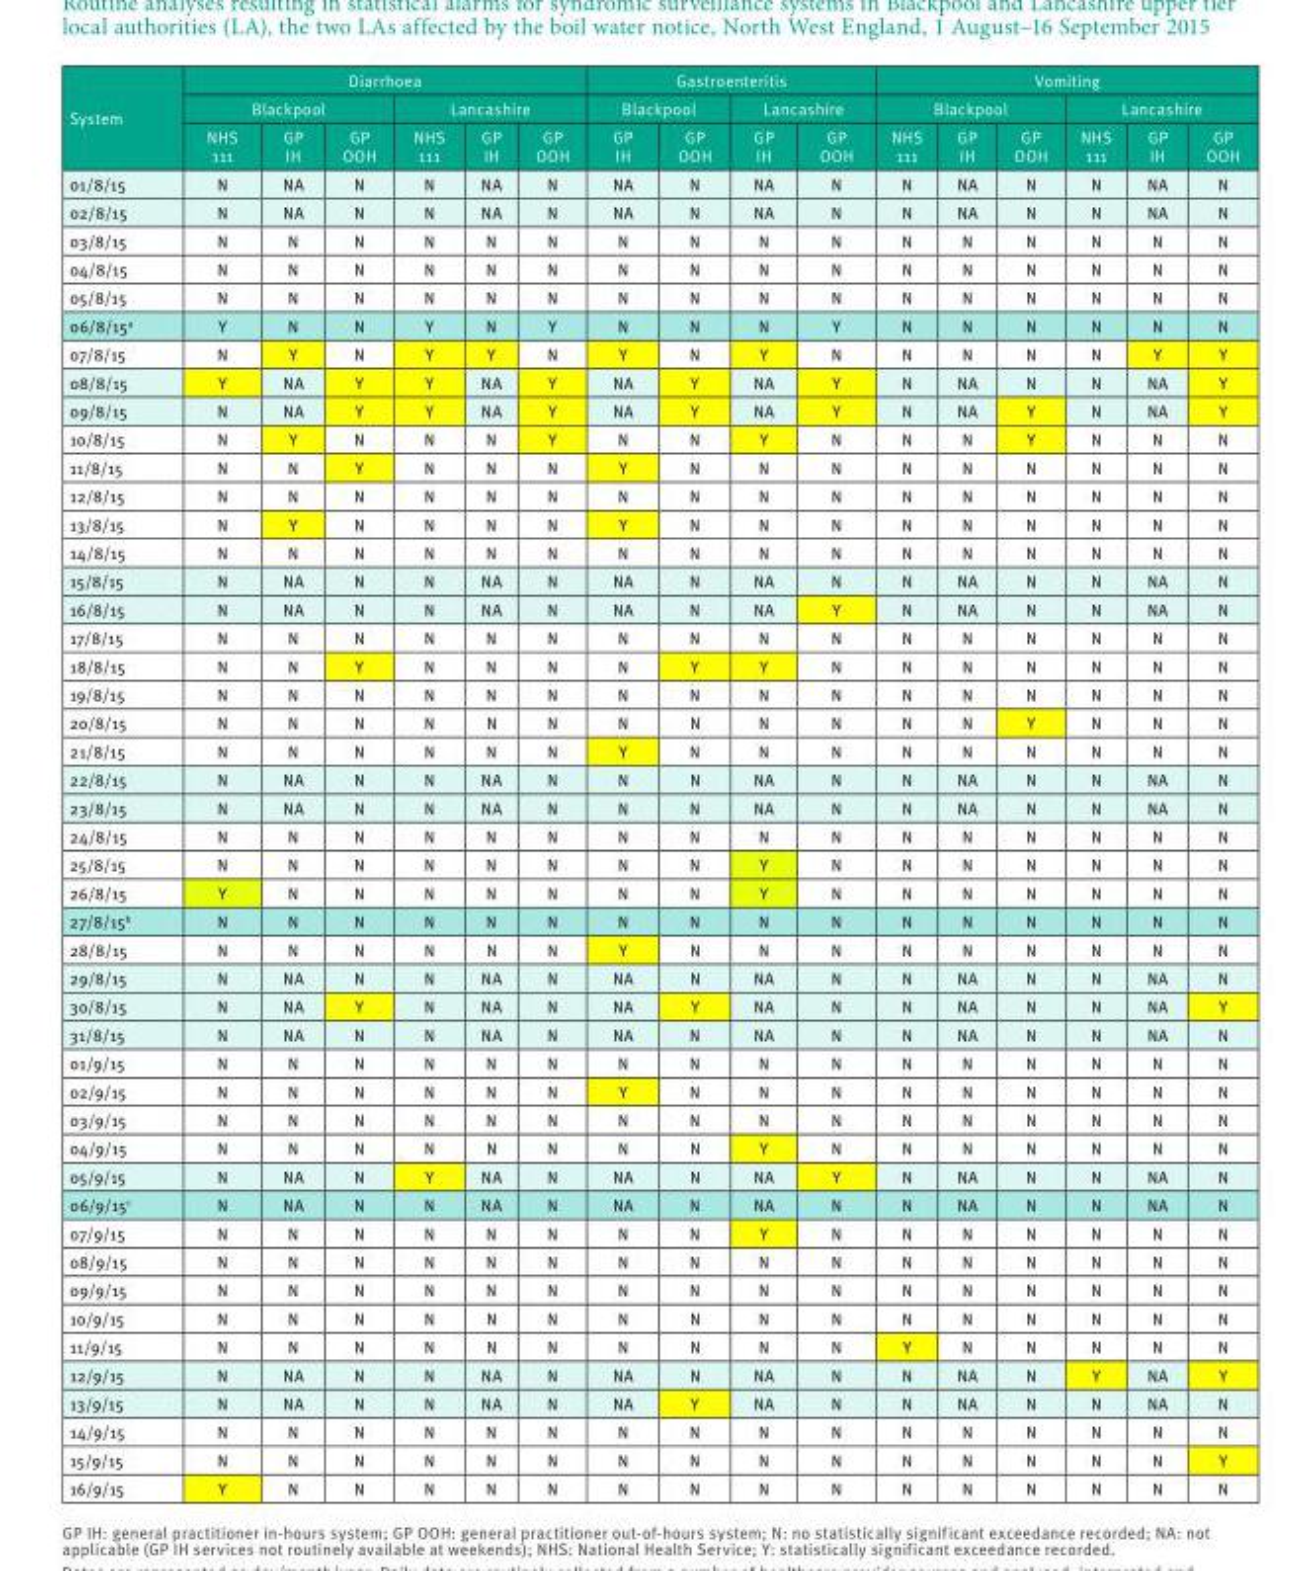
<table><thead><tr><td rowspan="3">System</td><td colspan="6">Diarrhoea</td><td colspan="4">Gastroenteritis</td><td colspan="6">Vomiting</td></tr><tr><td colspan="3">Blackpool</td><td colspan="3">Lancashire</td><td colspan="2">Blackpool</td><td colspan="2">Lancashire</td><td colspan="3">Blackpool</td><td colspan="3">Lancashire</td></tr><tr><td>NHS 111</td><td>GP IH</td><td>GP OOH</td><td>NHS 111</td><td>GP IH</td><td>GP OOH</td><td>GP IH</td><td>GP OOH</td><td>GP IH</td><td>GP OOH</td><td>NHS 111</td><td>GP IH</td><td>GP OOH</td><td>NHS 111</td><td>GP IH</td><td>GP OOH</td></tr></thead><tbody><tr><td>01/8/15</td><td>N</td><td>NA</td><td>N</td><td>N</td><td>NA</td><td>N</td><td>NA</td><td>N</td><td>NA</td><td>N</td><td>N</td><td>NA</td><td>N</td><td>N</td><td>NA</td><td>N</td></tr><tr><td>02/8/15</td><td>N</td><td>NA</td><td>N</td><td>N</td><td>NA</td><td>N</td><td>NA</td><td>N</td><td>NA</td><td>N</td><td>N</td><td>NA</td><td>N</td><td>N</td><td>NA</td><td>N</td></tr><tr><td>03/8/15</td><td>N</td><td>N</td><td>N</td><td>N</td><td>N</td><td>N</td><td>N</td><td>N</td><td>N</td><td>N</td><td>N</td><td>N</td><td>N</td><td>N</td><td>N</td><td>N</td></tr><tr><td>04/8/15</td><td>N</td><td>N</td><td>N</td><td>N</td><td>N</td><td>N</td><td>N</td><td>N</td><td>N</td><td>N</td><td>N</td><td>N</td><td>N</td><td>N</td><td>N</td><td>N</td></tr><tr><td>05/8/15</td><td>N</td><td>N</td><td>N</td><td>N</td><td>N</td><td>N</td><td>N</td><td>N</td><td>N</td><td>N</td><td>N</td><td>N</td><td>N</td><td>N</td><td>N</td><td>N</td></tr><tr><td>06/8/15<sup>a</sup></td><td>Y</td><td>N</td><td>N</td><td>Y</td><td>N</td><td>Y</td><td>N</td><td>N</td><td>N</td><td>Y</td><td>N</td><td>N</td><td>N</td><td>N</td><td>N</td><td>N</td></tr><tr><td>07/8/15</td><td>N</td><td>Y</td><td>N</td><td>Y</td><td>Y</td><td>N</td><td>Y</td><td>N</td><td>Y</td><td>N</td><td>N</td><td>N</td><td>N</td><td>N</td><td>Y</td><td>Y</td></tr><tr><td>08/8/15</td><td>Y</td><td>NA</td><td>Y</td><td>Y</td><td>NA</td><td>Y</td><td>NA</td><td>Y</td><td>NA</td><td>Y</td><td>N</td><td>NA</td><td>N</td><td>N</td><td>NA</td><td>Y</td></tr><tr><td>09/8/15</td><td>N</td><td>NA</td><td>Y</td><td>Y</td><td>NA</td><td>Y</td><td>NA</td><td>Y</td><td>NA</td><td>Y</td><td>N</td><td>NA</td><td>Y</td><td>N</td><td>NA</td><td>Y</td></tr><tr><td>10/8/15</td><td>N</td><td>Y</td><td>N</td><td>N</td><td>N</td><td>Y</td><td>N</td><td>N</td><td>Y</td><td>N</td><td>N</td><td>N</td><td>Y</td><td>N</td><td>N</td><td>N</td></tr><tr><td>11/8/15</td><td>N</td><td>N</td><td>Y</td><td>N</td><td>N</td><td>N</td><td>Y</td><td>N</td><td>N</td><td>N</td><td>N</td><td>N</td><td>N</td><td>N</td><td>N</td><td>N</td></tr><tr><td>12/8/15</td><td>N</td><td>N</td><td>N</td><td>N</td><td>N</td><td>N</td><td>N</td><td>N</td><td>N</td><td>N</td><td>N</td><td>N</td><td>N</td><td>N</td><td>N</td><td>N</td></tr><tr><td>13/8/15</td><td>N</td><td>Y</td><td>N</td><td>N</td><td>N</td><td>N</td><td>Y</td><td>N</td><td>N</td><td>N</td><td>N</td><td>N</td><td>N</td><td>N</td><td>N</td><td>N</td></tr><tr><td>14/8/15</td><td>N</td><td>N</td><td>N</td><td>N</td><td>N</td><td>N</td><td>N</td><td>N</td><td>N</td><td>N</td><td>N</td><td>N</td><td>N</td><td>N</td><td>N</td><td>N</td></tr><tr><td>15/8/15</td><td>N</td><td>NA</td><td>N</td><td>N</td><td>NA</td><td>N</td><td>NA</td><td>N</td><td>NA</td><td>N</td><td>N</td><td>NA</td><td>N</td><td>N</td><td>NA</td><td>N</td></tr><tr><td>16/8/15</td><td>N</td><td>NA</td><td>N</td><td>N</td><td>NA</td><td>N</td><td>NA</td><td>N</td><td>NA</td><td>Y</td><td>N</td><td>NA</td><td>N</td><td>N</td><td>NA</td><td>N</td></tr><tr><td>17/8/15</td><td>N</td><td>N</td><td>N</td><td>N</td><td>N</td><td>N</td><td>N</td><td>N</td><td>N</td><td>N</td><td>N</td><td>N</td><td>N</td><td>N</td><td>N</td><td>N</td></tr><tr><td>18/8/15</td><td>N</td><td>N</td><td>Y</td><td>N</td><td>N</td><td>N</td><td>N</td><td>Y</td><td>Y</td><td>N</td><td>N</td><td>N</td><td>N</td><td>N</td><td>N</td><td>N</td></tr><tr><td>19/8/15</td><td>N</td><td>N</td><td>N</td><td>N</td><td>N</td><td>N</td><td>N</td><td>N</td><td>N</td><td>N</td><td>N</td><td>N</td><td>N</td><td>N</td><td>N</td><td>N</td></tr><tr><td>20/8/15</td><td>N</td><td>N</td><td>N</td><td>N</td><td>N</td><td>N</td><td>N</td><td>N</td><td>N</td><td>N</td><td>N</td><td>N</td><td>Y</td><td>N</td><td>N</td><td>N</td></tr><tr><td>21/8/15</td><td>N</td><td>N</td><td>N</td><td>N</td><td>N</td><td>N</td><td>Y</td><td>N</td><td>N</td><td>N</td><td>N</td><td>N</td><td>N</td><td>N</td><td>N</td><td>N</td></tr><tr><td>22/8/15</td><td>N</td><td>NA</td><td>N</td><td>N</td><td>NA</td><td>N</td><td>N</td><td>N</td><td>NA</td><td>N</td><td>N</td><td>NA</td><td>N</td><td>N</td><td>NA</td><td>N</td></tr><tr><td>23/8/15</td><td>N</td><td>NA</td><td>N</td><td>N</td><td>NA</td><td>N</td><td>N</td><td>N</td><td>NA</td><td>N</td><td>N</td><td>NA</td><td>N</td><td>N</td><td>NA</td><td>N</td></tr><tr><td>24/8/15</td><td>N</td><td>N</td><td>N</td><td>N</td><td>N</td><td>N</td><td>N</td><td>N</td><td>N</td><td>N</td><td>N</td><td>N</td><td>N</td><td>N</td><td>N</td><td>N</td></tr><tr><td>25/8/15</td><td>N</td><td>N</td><td>N</td><td>N</td><td>N</td><td>N</td><td>N</td><td>N</td><td>Y</td><td>N</td><td>N</td><td>N</td><td>N</td><td>N</td><td>N</td><td>N</td></tr><tr><td>26/8/15</td><td>Y</td><td>N</td><td>N</td><td>N</td><td>N</td><td>N</td><td>N</td><td>N</td><td>Y</td><td>N</td><td>N</td><td>N</td><td>N</td><td>N</td><td>N</td><td>N</td></tr><tr><td>27/8/15<sup>b</sup></td><td>N</td><td>N</td><td>N</td><td>N</td><td>N</td><td>N</td><td>N</td><td>N</td><td>N</td><td>N</td><td>N</td><td>N</td><td>N</td><td>N</td><td>N</td><td>N</td></tr><tr><td>28/8/15</td><td>N</td><td>N</td><td>N</td><td>N</td><td>N</td><td>N</td><td>Y</td><td>N</td><td>N</td><td>N</td><td>N</td><td>N</td><td>N</td><td>N</td><td>N</td><td>N</td></tr><tr><td>29/8/15</td><td>N</td><td>NA</td><td>N</td><td>N</td><td>NA</td><td>N</td><td>NA</td><td>N</td><td>NA</td><td>N</td><td>N</td><td>NA</td><td>N</td><td>N</td><td>NA</td><td>N</td></tr><tr><td>30/8/15</td><td>N</td><td>NA</td><td>Y</td><td>N</td><td>NA</td><td>N</td><td>NA</td><td>Y</td><td>NA</td><td>N</td><td>N</td><td>NA</td><td>N</td><td>N</td><td>NA</td><td>Y</td></tr><tr><td>31/8/15</td><td>N</td><td>NA</td><td>N</td><td>N</td><td>NA</td><td>N</td><td>NA</td><td>N</td><td>NA</td><td>N</td><td>N</td><td>NA</td><td>N</td><td>N</td><td>NA</td><td>N</td></tr><tr><td>01/9/15</td><td>N</td><td>N</td><td>N</td><td>N</td><td>N</td><td>N</td><td>N</td><td>N</td><td>N</td><td>N</td><td>N</td><td>N</td><td>N</td><td>N</td><td>N</td><td>N</td></tr><tr><td>02/9/15</td><td>N</td><td>N</td><td>N</td><td>N</td><td>N</td><td>N</td><td>Y</td><td>N</td><td>N</td><td>N</td><td>N</td><td>N</td><td>N</td><td>N</td><td>N</td><td>N</td></tr><tr><td>03/9/15</td><td>N</td><td>N</td><td>N</td><td>N</td><td>N</td><td>N</td><td>N</td><td>N</td><td>N</td><td>N</td><td>N</td><td>N</td><td>N</td><td>N</td><td>N</td><td>N</td></tr><tr><td>04/9/15</td><td>N</td><td>N</td><td>N</td><td>N</td><td>N</td><td>N</td><td>N</td><td>N</td><td>Y</td><td>N</td><td>N</td><td>N</td><td>N</td><td>N</td><td>N</td><td>N</td></tr><tr><td>05/9/15</td><td>N</td><td>NA</td><td>N</td><td>Y</td><td>NA</td><td>N</td><td>NA</td><td>N</td><td>NA</td><td>Y</td><td>N</td><td>NA</td><td>N</td><td>N</td><td>NA</td><td>N</td></tr><tr><td>06/9/15<sup>c</sup></td><td>N</td><td>NA</td><td>N</td><td>N</td><td>NA</td><td>N</td><td>NA</td><td>N</td><td>NA</td><td>N</td><td>N</td><td>NA</td><td>N</td><td>N</td><td>NA</td><td>N</td></tr><tr><td>07/9/15</td><td>N</td><td>N</td><td>N</td><td>N</td><td>N</td><td>N</td><td>N</td><td>N</td><td>Y</td><td>N</td><td>N</td><td>N</td><td>N</td><td>N</td><td>N</td><td>N</td></tr><tr><td>08/9/15</td><td>N</td><td>N</td><td>N</td><td>N</td><td>N</td><td>N</td><td>N</td><td>N</td><td>N</td><td>N</td><td>N</td><td>N</td><td>N</td><td>N</td><td>N</td><td>N</td></tr><tr><td>09/9/15</td><td>N</td><td>N</td><td>N</td><td>N</td><td>N</td><td>N</td><td>N</td><td>N</td><td>N</td><td>N</td><td>N</td><td>N</td><td>N</td><td>N</td><td>N</td><td>N</td></tr><tr><td>10/9/15</td><td>N</td><td>N</td><td>N</td><td>N</td><td>N</td><td>N</td><td>N</td><td>N</td><td>N</td><td>N</td><td>N</td><td>N</td><td>N</td><td>N</td><td>N</td><td>N</td></tr><tr><td>11/9/15</td><td>N</td><td>N</td><td>N</td><td>N</td><td>N</td><td>N</td><td>N</td><td>N</td><td>N</td><td>N</td><td>Y</td><td>N</td><td>N</td><td>N</td><td>N</td><td>N</td></tr><tr><td>12/9/15</td><td>N</td><td>NA</td><td>N</td><td>N</td><td>NA</td><td>N</td><td>NA</td><td>N</td><td>NA</td><td>N</td><td>N</td><td>NA</td><td>N</td><td>Y</td><td>NA</td><td>Y</td></tr><tr><td>13/9/15</td><td>N</td><td>NA</td><td>N</td><td>N</td><td>NA</td><td>N</td><td>NA</td><td>Y</td><td>NA</td><td>N</td><td>N</td><td>NA</td><td>N</td><td>N</td><td>NA</td><td>N</td></tr><tr><td>14/9/15</td><td>N</td><td>N</td><td>N</td><td>N</td><td>N</td><td>N</td><td>N</td><td>N</td><td>N</td><td>N</td><td>N</td><td>N</td><td>N</td><td>N</td><td>N</td><td>N</td></tr><tr><td>15/9/15</td><td>N</td><td>N</td><td>N</td><td>N</td><td>N</td><td>N</td><td>N</td><td>N</td><td>N</td><td>N</td><td>N</td><td>N</td><td>N</td><td>N</td><td>N</td><td>Y</td></tr><tr><td>16/9/15</td><td>Y</td><td>N</td><td>N</td><td>N</td><td>N</td><td>N</td><td>N</td><td>N</td><td>N</td><td>N</td><td>N</td><td>N</td><td>N</td><td>N</td><td>N</td><td>N</td></tr></tbody></table>